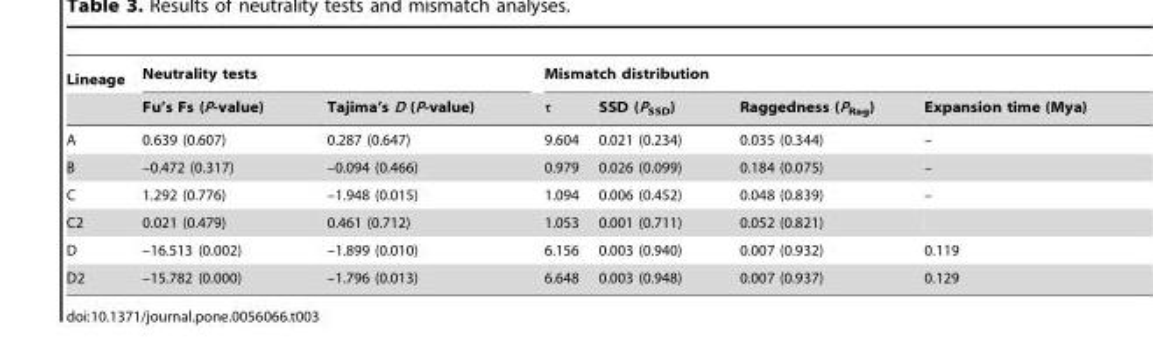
<table><thead><tr><td rowspan="2">Lineage</td><td colspan="2">Neutrality tests</td><td colspan="4">Mismatch distribution</td></tr><tr><td>Fu’s Fs (P-value)</td><td>Tajima’s D (P-value)</td><td>τ</td><td>SSD (P<sub>SSD</sub>)</td><td>Raggedness (P<sub>Rag</sub>)</td><td>Expansion time (Mya)</td></tr></thead><tbody><tr><td>A</td><td>0.639 (0.607)</td><td>0.287 (0.647)</td><td>9.604</td><td>0.021 (0.234)</td><td>0.035 (0.344)</td><td>–</td></tr><tr><td>B</td><td>–0.472 (0.317)</td><td>–0.094 (0.466)</td><td>0.979</td><td>0.026 (0.099)</td><td>0.184 (0.075)</td><td>–</td></tr><tr><td>C</td><td>1.292 (0.776)</td><td>–1.948 (0.015)</td><td>1.094</td><td>0.006 (0.452)</td><td>0.048 (0.839)</td><td>–</td></tr><tr><td>C2</td><td>0.021 (0.479)</td><td>0.461 (0.712)</td><td>1.053</td><td>0.001 (0.711)</td><td>0.052 (0.821)</td><td></td></tr><tr><td>D</td><td>–16.513 (0.002)</td><td>–1.899 (0.010)</td><td>6.156</td><td>0.003 (0.940)</td><td>0.007 (0.932)</td><td>0.119</td></tr><tr><td>D2</td><td>–15.782 (0.000)</td><td>–1.796 (0.013)</td><td>6.648</td><td>0.003 (0.948)</td><td>0.007 (0.937)</td><td>0.129</td></tr></tbody></table>